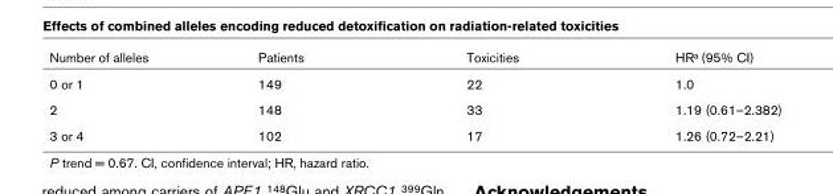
<table><thead><tr><td>Number of alleles</td><td>Patients</td><td>Toxicities</td><td>HRa (95% CI)</td></tr></thead><tbody><tr><td>0 or 1</td><td>149</td><td>22</td><td>1.0</td></tr><tr><td>2</td><td>148</td><td>33</td><td>1.19 (0.61–2.382)</td></tr><tr><td>3 or 4</td><td>102</td><td>17</td><td>1.26 (0.72–2.21)</td></tr></tbody></table>